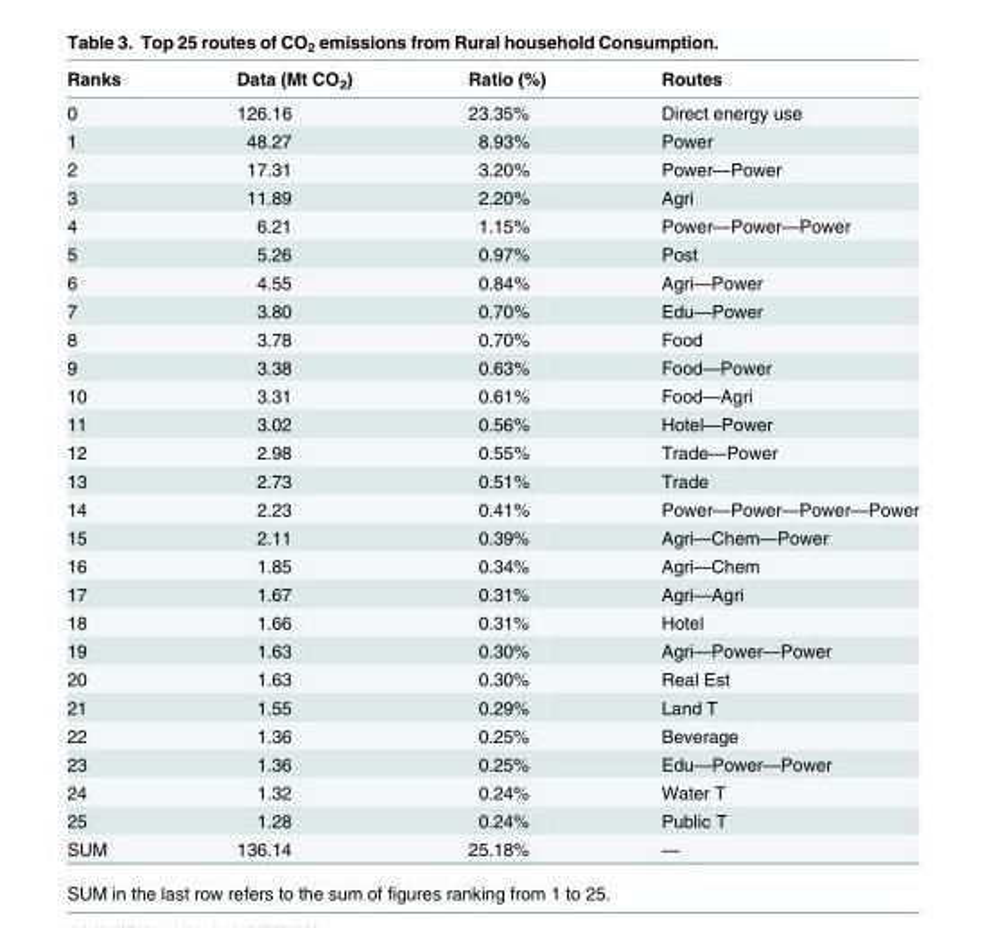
<table><thead><tr><td>Ranks</td><td>Data (Mt CO<sub>2</sub>)</td><td>Ratio (%)</td><td>Routes</td></tr></thead><tbody><tr><td>0</td><td>126.16</td><td>23.35%</td><td>Direct energy use</td></tr><tr><td>1</td><td>48.27</td><td>8.93%</td><td>Power</td></tr><tr><td>2</td><td>17.31</td><td>3.20%</td><td>Power—Power</td></tr><tr><td>3</td><td>11.89</td><td>2.20%</td><td>Agri</td></tr><tr><td>4</td><td>6.21</td><td>1.15%</td><td>Power—Power—Power</td></tr><tr><td>5</td><td>5.26</td><td>0.97%</td><td>Post</td></tr><tr><td>6</td><td>4.55</td><td>0.84%</td><td>Agri—Power</td></tr><tr><td>7</td><td>3.80</td><td>0.70%</td><td>Edu—Power</td></tr><tr><td>8</td><td>3.78</td><td>0.70%</td><td>Food</td></tr><tr><td>9</td><td>3.38</td><td>0.63%</td><td>Food—Power</td></tr><tr><td>10</td><td>3.31</td><td>0.61%</td><td>Food—Agri</td></tr><tr><td>11</td><td>3.02</td><td>0.56%</td><td>Hotel—Power</td></tr><tr><td>12</td><td>2.98</td><td>0.55%</td><td>Trade—Power</td></tr><tr><td>13</td><td>2.73</td><td>0.51%</td><td>Trade</td></tr><tr><td>14</td><td>2.23</td><td>0.41%</td><td>Power—Power—Power—Power</td></tr><tr><td>15</td><td>2.11</td><td>0.39%</td><td>Agri—Chem—Power</td></tr><tr><td>16</td><td>1.85</td><td>0.34%</td><td>Agri—Chem</td></tr><tr><td>17</td><td>1.67</td><td>0.31%</td><td>Agri—Agri</td></tr><tr><td>18</td><td>1.66</td><td>0.31%</td><td>Hotel</td></tr><tr><td>19</td><td>1.63</td><td>0.30%</td><td>Agri—Power—Power</td></tr><tr><td>20</td><td>1.63</td><td>0.30%</td><td>Real Est</td></tr><tr><td>21</td><td>1.55</td><td>0.29%</td><td>Land T</td></tr><tr><td>22</td><td>1.36</td><td>0.25%</td><td>Beverage</td></tr><tr><td>23</td><td>1.36</td><td>0.25%</td><td>Edu—Power—Power</td></tr><tr><td>24</td><td>1.32</td><td>0.24%</td><td>Water T</td></tr><tr><td>25</td><td>1.28</td><td>0.24%</td><td>Public T</td></tr><tr><td>SUM</td><td>136.14</td><td>25.18%</td><td>—</td></tr></tbody></table>